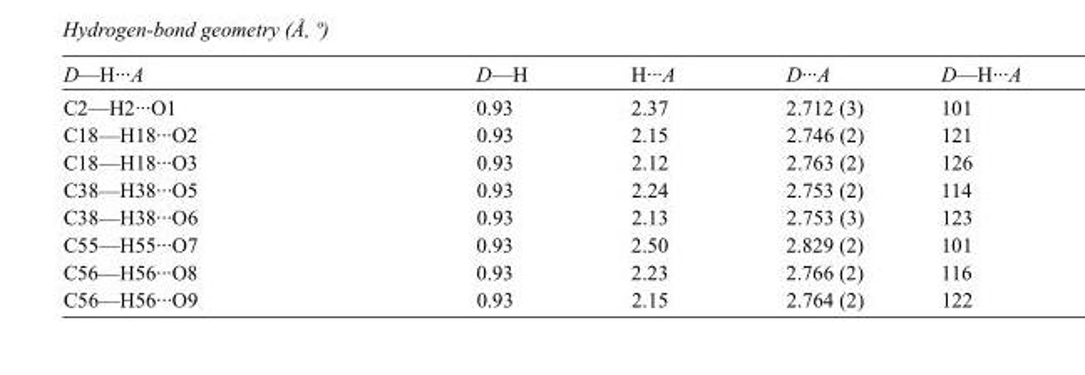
<table><tbody><tr><td>D—H···A</td><td>D—H</td><td>H···A</td><td>D···A</td><td>D—H···A</td></tr><tr><td>C2—H2···O1</td><td>0.93</td><td>2.37</td><td>2.712 (3)</td><td>101</td></tr><tr><td>C18—H18···O2</td><td>0.93</td><td>2.15</td><td>2.746 (2)</td><td>121</td></tr><tr><td>C18—H18···O3</td><td>0.93</td><td>2.12</td><td>2.763 (2)</td><td>126</td></tr><tr><td>C38—H38···O5</td><td>0.93</td><td>2.24</td><td>2.753 (2)</td><td>114</td></tr><tr><td>C38—H38···O6</td><td>0.93</td><td>2.13</td><td>2.753 (3)</td><td>123</td></tr><tr><td>C55—H55···O7</td><td>0.93</td><td>2.50</td><td>2.829 (2)</td><td>101</td></tr><tr><td>C56—H56···O8</td><td>0.93</td><td>2.23</td><td>2.766 (2)</td><td>116</td></tr><tr><td>C56—H56···O9</td><td>0.93</td><td>2.15</td><td>2.764 (2)</td><td>122</td></tr></tbody></table>